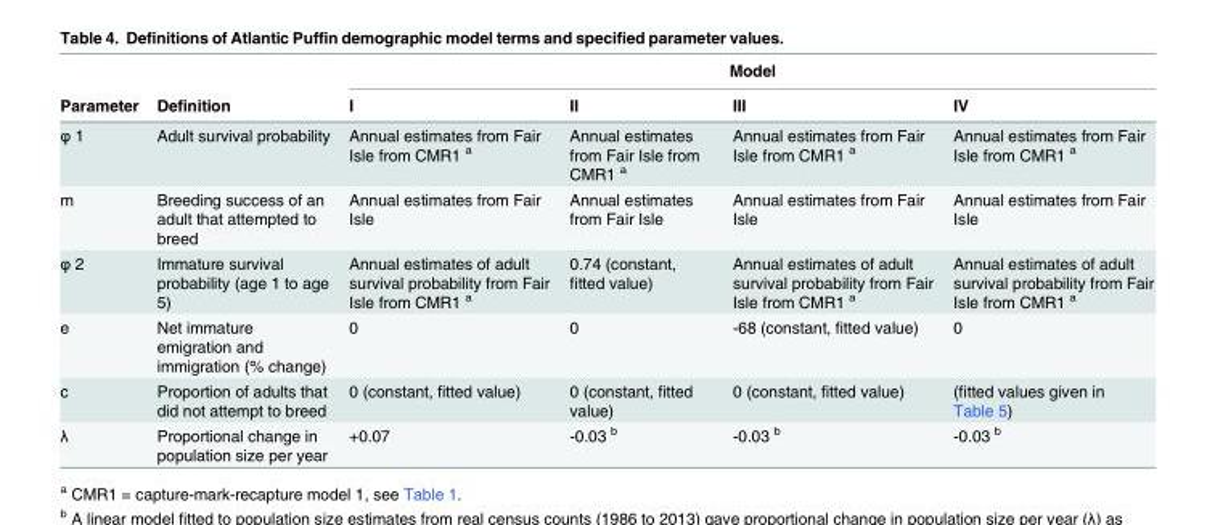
<table><thead><tr><td rowspan="2">Parameter</td><td rowspan="2">Definition</td><td colspan="4">Model</td></tr><tr><td>I</td><td>II</td><td>III</td><td>IV</td></tr></thead><tbody><tr><td>φ 1</td><td>Adult survival probability</td><td>Annual estimates from Fair Isle from CMR1 <sup>a</sup></td><td>Annual estimates from Fair Isle from CMR1 <sup>a</sup></td><td>Annual estimates from Fair Isle from CMR1 <sup>a</sup></td><td>Annual estimates from Fair Isle from CMR1 <sup>a</sup></td></tr><tr><td>m</td><td>Breeding success of an adult that attempted to breed</td><td>Annual estimates from Fair Isle</td><td>Annual estimates from Fair Isle</td><td>Annual estimates from Fair Isle</td><td>Annual estimates from Fair Isle</td></tr><tr><td>φ 2</td><td>Immature survival probability (age 1 to age 5)</td><td>Annual estimates of adult survival probability from Fair Isle from CMR1 <sup>a</sup></td><td>0.74 (constant, fitted value)</td><td>Annual estimates of adult survival probability from Fair Isle from CMR1 <sup>a</sup></td><td>Annual estimates of adult survival probability from Fair Isle from CMR1 <sup>a</sup></td></tr><tr><td>e</td><td>Net immature emigration and immigration (% change)</td><td>0</td><td>0</td><td>-68 (constant, fitted value)</td><td>0</td></tr><tr><td>c</td><td>Proportion of adults that did not attempt to breed</td><td>0 (constant, fitted value)</td><td>0 (constant, fitted value)</td><td>0 (constant, fitted value)</td><td>(fitted values given in Table 5)</td></tr><tr><td>λ</td><td>Proportional change in population size per year</td><td>+0.07</td><td>-0.03 <sup>b</sup></td><td>-0.03 <sup>b</sup></td><td>-0.03 <sup>b</sup></td></tr></tbody></table>